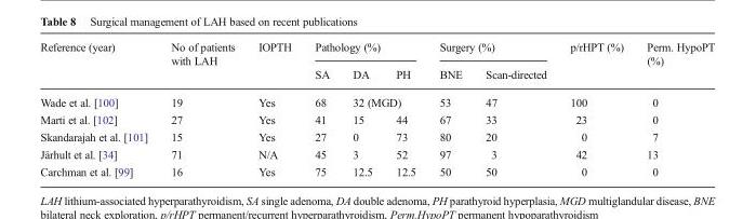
<table><thead><tr><td rowspan="2">Reference (year)</td><td rowspan="2">No of patients with LAH</td><td rowspan="2">IOPTH</td><td colspan="3">Pathology (%)</td><td colspan="2">Surgery (%)</td><td rowspan="2">p/rHPT (%)</td><td rowspan="2">Perm. HypoPT (%)</td></tr><tr><td>SA</td><td>DA</td><td>PH</td><td>BNE</td><td>Scan-directed</td></tr></thead><tbody><tr><td>Wade et al. [100]</td><td>19</td><td>Yes</td><td>68</td><td colspan="2">32 (MGD)</td><td>53</td><td>47</td><td>100</td><td>0</td></tr><tr><td>Marti et al. [102]</td><td>27</td><td>Yes</td><td>41</td><td>15</td><td>44</td><td>67</td><td>33</td><td>23</td><td>0</td></tr><tr><td>Skandarajah et al. [101]</td><td>15</td><td>Yes</td><td>27</td><td>0</td><td>73</td><td>80</td><td>20</td><td>0</td><td>7</td></tr><tr><td>Järhult et al. [34]</td><td>71</td><td>N/A</td><td>45</td><td>3</td><td>52</td><td>97</td><td>3</td><td>42</td><td>13</td></tr><tr><td>Carchman et al. [99]</td><td>16</td><td>Yes</td><td>75</td><td>12.5</td><td>12.5</td><td>50</td><td>50</td><td>0</td><td>0</td></tr></tbody></table>